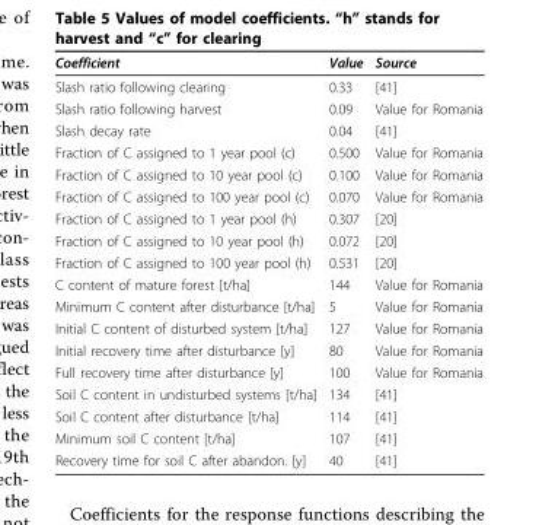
<table><thead><tr><td>Coefficient</td><td>Value</td><td>Source</td></tr></thead><tbody><tr><td>Slash ratio following clearing</td><td>0.33</td><td>[41]</td></tr><tr><td>Slash ratio following harvest</td><td>0.09</td><td>Value for Romania</td></tr><tr><td>Slash decay rate</td><td>0.04</td><td>[41]</td></tr><tr><td>Fraction of C assigned to 1 year pool (c)</td><td>0.500</td><td>Value for Romania</td></tr><tr><td>Fraction of C assigned to 10 year pool (c)</td><td>0.100</td><td>Value for Romania</td></tr><tr><td>Fraction of C assigned to 100 year pool (c)</td><td>0.070</td><td>Value for Romania</td></tr><tr><td>Fraction of C assigned to 1 year pool (h)</td><td>0.307</td><td>[20]</td></tr><tr><td>Fraction of C assigned to 10 year pool (h)</td><td>0.072</td><td>[20]</td></tr><tr><td>Fraction of C assigned to 100 year pool (h)</td><td>0.531</td><td>[20]</td></tr><tr><td>C content of mature forest [t/ha]</td><td>144</td><td>Value for Romania</td></tr><tr><td>Minimum C content after disturbance [t/ha]</td><td>5</td><td>Value for Romania</td></tr><tr><td>Initial C content of disturbed system [t/ha]</td><td>127</td><td>Value for Romania</td></tr><tr><td>Initial recovery time after disturbance [y]</td><td>80</td><td>Value for Romania</td></tr><tr><td>Full recovery time after disturbance [y]</td><td>100</td><td>Value for Romania</td></tr><tr><td>Soil C content in undisturbed systems [t/ha]</td><td>134</td><td>[41]</td></tr><tr><td>Soil C content after disturbance [t/ha]</td><td>114</td><td>[41]</td></tr><tr><td>Minimum soil C content [t/ha]</td><td>107</td><td>[41]</td></tr><tr><td>Recovery time for soil C after abandon. [y]</td><td>40</td><td>[41]</td></tr></tbody></table>